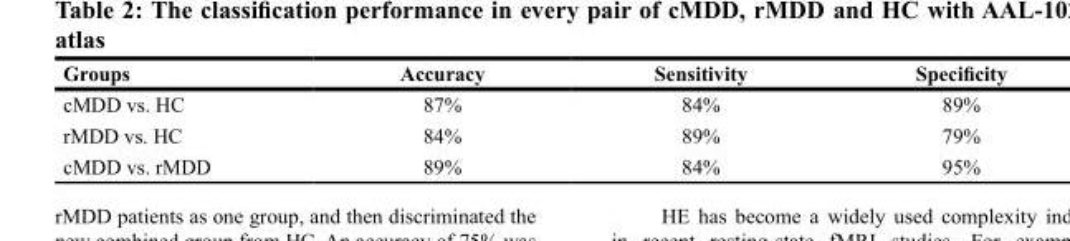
<table><thead><tr><td>Groups</td><td>Accuracy</td><td>Sensitivity</td><td>Specificity</td></tr></thead><tbody><tr><td>cMDD vs. HC</td><td>87%</td><td>84%</td><td>89%</td></tr><tr><td>rMDD vs. HC</td><td>84%</td><td>89%</td><td>79%</td></tr><tr><td>cMDD vs. rMDD</td><td>89%</td><td>84%</td><td>95%</td></tr></tbody></table>